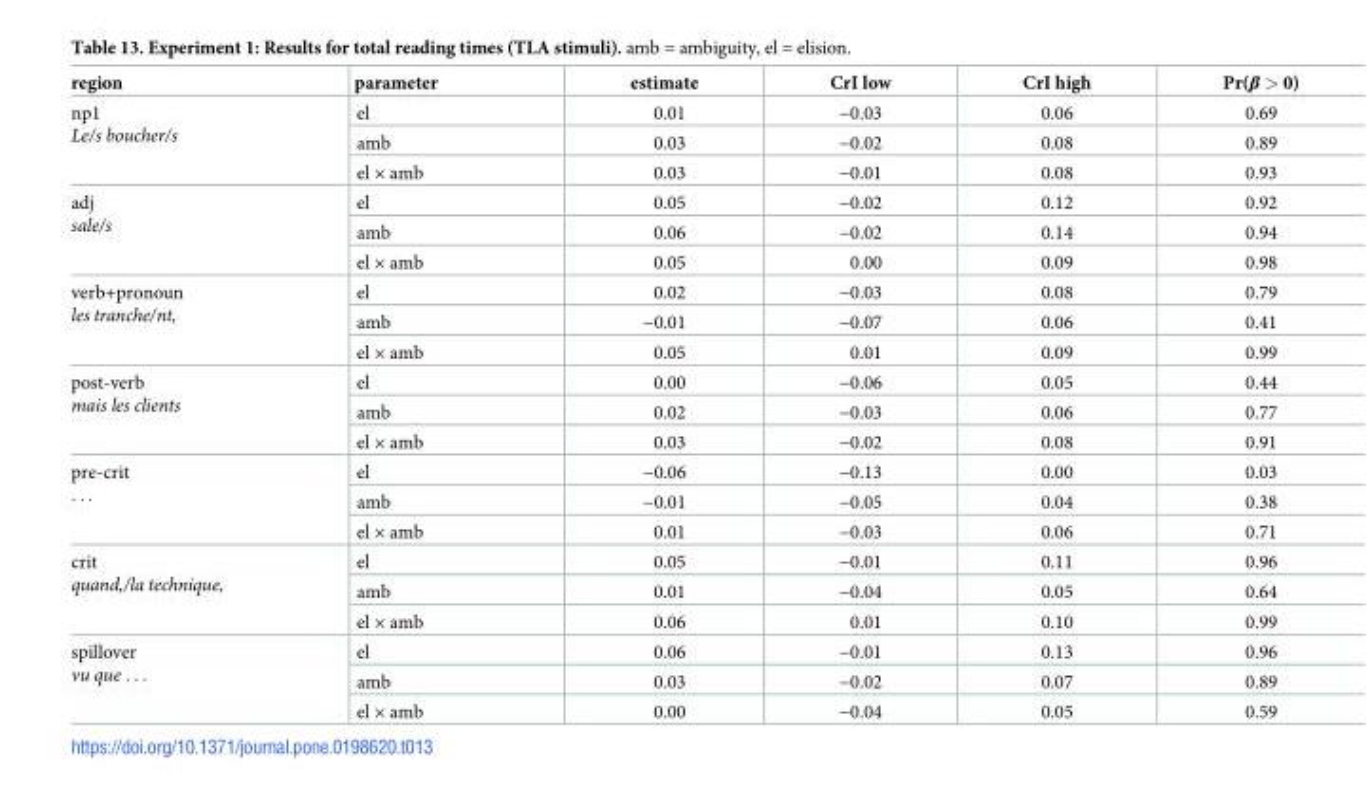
<table><thead><tr><td>region</td><td>parameter</td><td>estimate</td><td>CrI low</td><td>CrI high</td><td>Pr(β &gt; 0)</td></tr></thead><tbody><tr><td rowspan="3">np1 Le/s boucher/s</td><td>el</td><td>0.01</td><td>−0.03</td><td>0.06</td><td>0.69</td></tr><tr><td>amb</td><td>0.03</td><td>−0.02</td><td>0.08</td><td>0.89</td></tr><tr><td>el × amb</td><td>0.03</td><td>−0.01</td><td>0.08</td><td>0.93</td></tr><tr><td rowspan="3">adj sale/s</td><td>el</td><td>0.05</td><td>−0.02</td><td>0.12</td><td>0.92</td></tr><tr><td>amb</td><td>0.06</td><td>−0.02</td><td>0.14</td><td>0.94</td></tr><tr><td>el × amb</td><td>0.05</td><td>0.00</td><td>0.09</td><td>0.98</td></tr><tr><td rowspan="3">verb+pronoun les tranche/nt,</td><td>el</td><td>0.02</td><td>−0.03</td><td>0.08</td><td>0.79</td></tr><tr><td>amb</td><td>−0.01</td><td>−0.07</td><td>0.06</td><td>0.41</td></tr><tr><td>el × amb</td><td>0.05</td><td>0.01</td><td>0.09</td><td>0.99</td></tr><tr><td rowspan="3">post-verb mais les clients</td><td>el</td><td>0.00</td><td>−0.06</td><td>0.05</td><td>0.44</td></tr><tr><td>amb</td><td>0.02</td><td>−0.03</td><td>0.06</td><td>0.77</td></tr><tr><td>el × amb</td><td>0.03</td><td>−0.02</td><td>0.08</td><td>0.91</td></tr><tr><td rowspan="3">pre-crit . . .</td><td>el</td><td>−0.06</td><td>−0.13</td><td>0.00</td><td>0.03</td></tr><tr><td>amb</td><td>−0.01</td><td>−0.05</td><td>0.04</td><td>0.38</td></tr><tr><td>el × amb</td><td>0.01</td><td>−0.03</td><td>0.06</td><td>0.71</td></tr><tr><td rowspan="3">crit quand,/la technique,</td><td>el</td><td>0.05</td><td>−0.01</td><td>0.11</td><td>0.96</td></tr><tr><td>amb</td><td>0.01</td><td>−0.04</td><td>0.05</td><td>0.64</td></tr><tr><td>el × amb</td><td>0.06</td><td>0.01</td><td>0.10</td><td>0.99</td></tr><tr><td rowspan="3">spillover vu que . . .</td><td>el</td><td>0.06</td><td>−0.01</td><td>0.13</td><td>0.96</td></tr><tr><td>amb</td><td>0.03</td><td>−0.02</td><td>0.07</td><td>0.89</td></tr><tr><td>el × amb</td><td>0.00</td><td>−0.04</td><td>0.05</td><td>0.59</td></tr></tbody></table>